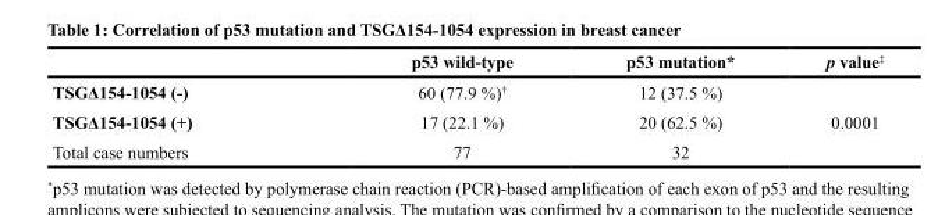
<table><thead><tr><td></td><td>p53 wild-type</td><td>p53 mutation*</td><td>p value<sup>‡</sup></td></tr></thead><tbody><tr><td>TSGΔ154-1054 (-)</td><td>60 (77.9 %)<sup>†</sup></td><td>12 (37.5 %)</td><td rowspan="3">0.0001</td></tr><tr><td>TSGΔ154-1054 (+)</td><td>17 (22.1 %)</td><td>20 (62.5 %)</td></tr><tr><td>Total case numbers</td><td>77</td><td>32</td></tr></tbody></table>